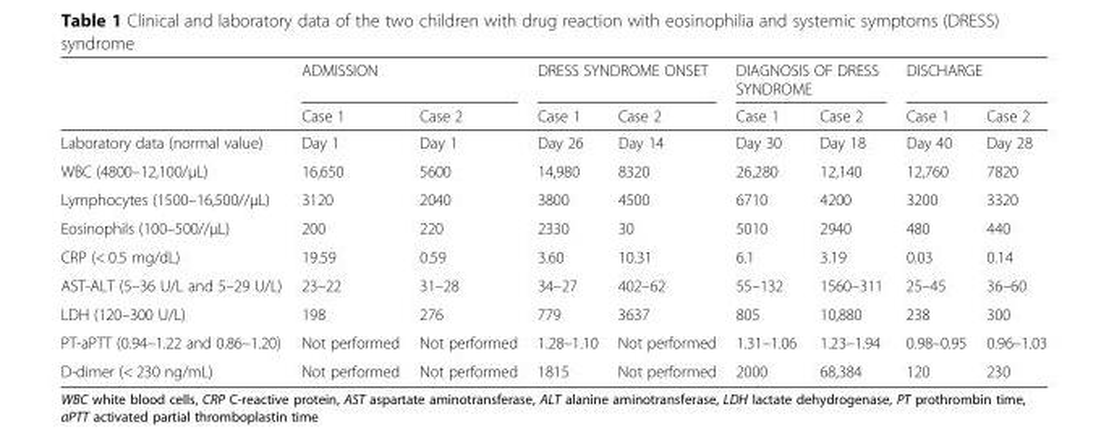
<table><thead><tr><td rowspan="2"></td><td colspan="2">ADMISSION</td><td colspan="2">DRESS SYNDROME ONSET</td><td colspan="2">DIAGNOSIS OF DRESS SYNDROME</td><td colspan="2">DISCHARGE</td></tr><tr><td>Case 1</td><td>Case 2</td><td>Case 1</td><td>Case 2</td><td>Case 1</td><td>Case 2</td><td>Case 1</td><td>Case 2</td></tr></thead><tbody><tr><td>Laboratory data (normal value)</td><td>Day 1</td><td>Day 1</td><td>Day 26</td><td>Day 14</td><td>Day 30</td><td>Day 18</td><td>Day 40</td><td>Day 28</td></tr><tr><td>WBC (4800–12,100/μL)</td><td>16,650</td><td>5600</td><td>14,980</td><td>8320</td><td>26,280</td><td>12,140</td><td>12,760</td><td>7820</td></tr><tr><td>Lymphocytes (1500–16,500//μL)</td><td>3120</td><td>2040</td><td>3800</td><td>4500</td><td>6710</td><td>4200</td><td>3200</td><td>3320</td></tr><tr><td>Eosinophils (100–500//μL)</td><td>200</td><td>220</td><td>2330</td><td>30</td><td>5010</td><td>2940</td><td>480</td><td>440</td></tr><tr><td>CRP (&lt; 0.5 mg/dL)</td><td>19.59</td><td>0.59</td><td>3.60</td><td>10.31</td><td>6.1</td><td>3.19</td><td>0.03</td><td>0.14</td></tr><tr><td>AST-ALT (5–36 U/L and 5–29 U/L)</td><td>23–22</td><td>31–28</td><td>34–27</td><td>402–62</td><td>55–132</td><td>1560–311</td><td>25–45</td><td>36–60</td></tr><tr><td>LDH (120–300 U/L)</td><td>198</td><td>276</td><td>779</td><td>3637</td><td>805</td><td>10,880</td><td>238</td><td>300</td></tr><tr><td>PT-aPTT (0.94–1.22 and 0.86–1.20)</td><td>Not performed</td><td>Not performed</td><td>1.28–1.10</td><td>Not performed</td><td>1.31–1.06</td><td>1.23–1.94</td><td>0.98–0.95</td><td>0.96–1.03</td></tr><tr><td>D-dimer (&lt; 230 ng/mL)</td><td>Not performed</td><td>Not performed</td><td>1815</td><td>Not performed</td><td>2000</td><td>68,384</td><td>120</td><td>230</td></tr></tbody></table>